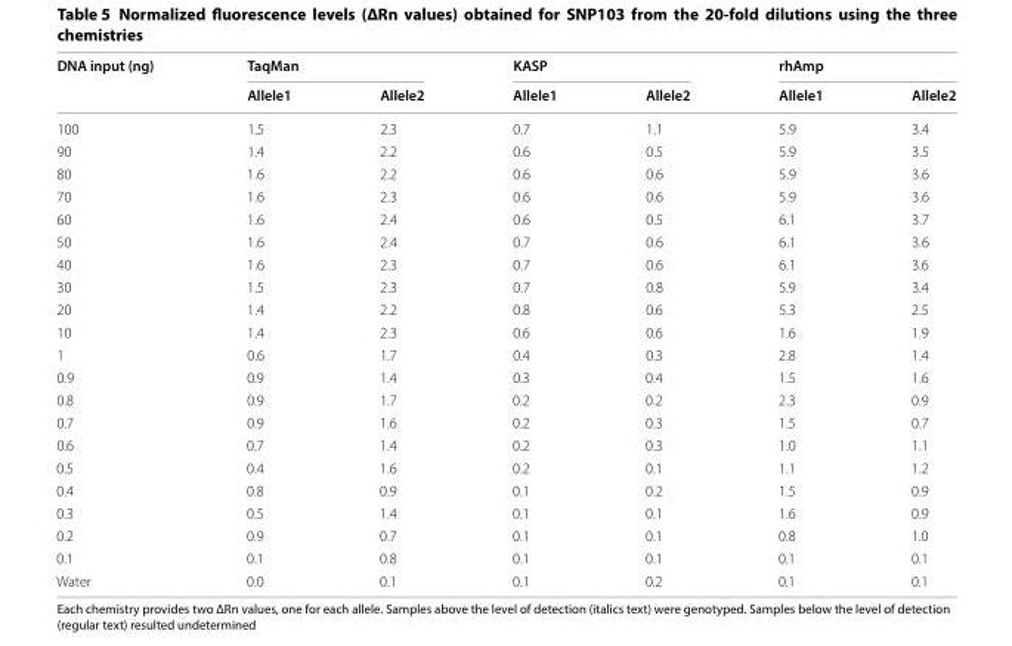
<table><thead><tr><td rowspan="2">DNA input (ng)</td><td colspan="2">TaqMan</td><td colspan="2">KASP</td><td colspan="2">rhAmp</td></tr><tr><td>Allele1</td><td>Allele2</td><td>Allele1</td><td>Allele2</td><td>Allele1</td><td>Allele2</td></tr></thead><tbody><tr><td>100</td><td>1.5</td><td>2.3</td><td>0.7</td><td>1.1</td><td>5.9</td><td>3.4</td></tr><tr><td>90</td><td>1.4</td><td>2.2</td><td>0.6</td><td>0.5</td><td>5.9</td><td>3.5</td></tr><tr><td>80</td><td>1.6</td><td>2.2</td><td>0.6</td><td>0.6</td><td>5.9</td><td>3.6</td></tr><tr><td>70</td><td>1.6</td><td>2.3</td><td>0.6</td><td>0.6</td><td>5.9</td><td>3.6</td></tr><tr><td>60</td><td>1.6</td><td>2.4</td><td>0.6</td><td>0.5</td><td>6.1</td><td>3.7</td></tr><tr><td>50</td><td>1.6</td><td>2.4</td><td>0.7</td><td>0.6</td><td>6.1</td><td>3.6</td></tr><tr><td>40</td><td>1.6</td><td>2.3</td><td>0.7</td><td>0.6</td><td>6.1</td><td>3.6</td></tr><tr><td>30</td><td>1.5</td><td>2.3</td><td>0.7</td><td>0.8</td><td>5.9</td><td>3.4</td></tr><tr><td>20</td><td>1.4</td><td>2.2</td><td>0.8</td><td>0.6</td><td>5.3</td><td>2.5</td></tr><tr><td>10</td><td>1.4</td><td>2.3</td><td>0.6</td><td>0.6</td><td>1.6</td><td>1.9</td></tr><tr><td>1</td><td>0.6</td><td>1.7</td><td>0.4</td><td>0.3</td><td>2.8</td><td>1.4</td></tr><tr><td>0.9</td><td>0.9</td><td>1.4</td><td>0.3</td><td>0.4</td><td>1.5</td><td>1.6</td></tr><tr><td>0.8</td><td>0.9</td><td>1.7</td><td>0.2</td><td>0.2</td><td>2.3</td><td>0.9</td></tr><tr><td>0.7</td><td>0.9</td><td>1.6</td><td>0.2</td><td>0.3</td><td>1.5</td><td>0.7</td></tr><tr><td>0.6</td><td>0.7</td><td>1.4</td><td>0.2</td><td>0.3</td><td>1.0</td><td>1.1</td></tr><tr><td>0.5</td><td>0.4</td><td>1.6</td><td>0.2</td><td>0.1</td><td>1.1</td><td>1.2</td></tr><tr><td>0.4</td><td>0.8</td><td>0.9</td><td>0.1</td><td>0.2</td><td>1.5</td><td>0.9</td></tr><tr><td>0.3</td><td>0.5</td><td>1.4</td><td>0.1</td><td>0.1</td><td>1.6</td><td>0.9</td></tr><tr><td>0.2</td><td>0.9</td><td>0.7</td><td>0.1</td><td>0.1</td><td>0.8</td><td>1.0</td></tr><tr><td>0.1</td><td>0.1</td><td>0.8</td><td>0.1</td><td>0.1</td><td>0.1</td><td>0.1</td></tr><tr><td>Water</td><td>0.0</td><td>0.1</td><td>0.1</td><td>0.2</td><td>0.1</td><td>0.1</td></tr></tbody></table>